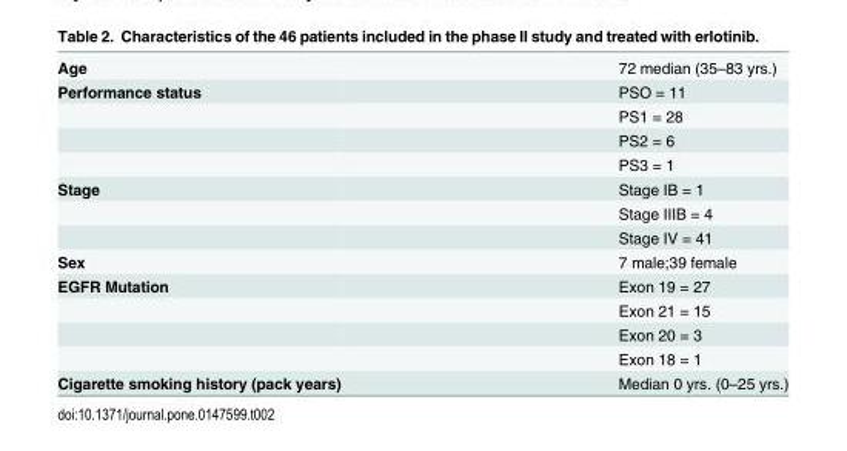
<table><tbody><tr><td>Age</td><td>72 median (35–83 yrs.)</td></tr><tr><td rowspan="4">Performance status</td><td>PSO = 11</td></tr><tr><td>PS1 = 28</td></tr><tr><td>PS2 = 6</td></tr><tr><td>PS3 = 1</td></tr><tr><td rowspan="3">Stage</td><td>Stage IB = 1</td></tr><tr><td>Stage IIIB = 4</td></tr><tr><td>Stage IV = 41</td></tr><tr><td>Sex</td><td>7 male;39 female</td></tr><tr><td rowspan="4">EGFR Mutation</td><td>Exon 19 = 27</td></tr><tr><td>Exon 21 = 15</td></tr><tr><td>Exon 20 = 3</td></tr><tr><td>Exon 18 = 1</td></tr><tr><td>Cigarette smoking history (pack years)</td><td>Median 0 yrs. (0–25 yrs.)</td></tr></tbody></table>